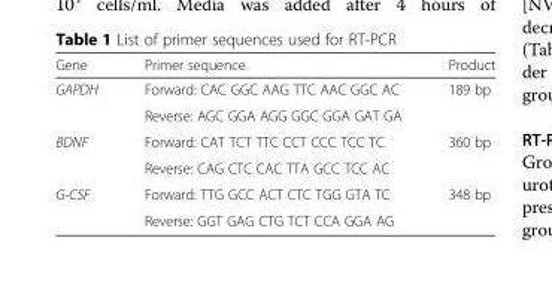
<table><thead><tr><td>Gene</td><td>Primer sequence</td><td>Product</td></tr></thead><tbody><tr><td rowspan="2">GAPDH</td><td>Forward: CAC GGC AAG TTC AAC GGC AC</td><td rowspan="2">189 bp</td></tr><tr><td>Reverse: AGC GGA AGG GGC GGA GAT GA</td></tr><tr><td rowspan="2">BDNF</td><td>Forward: CAT TCT TTC CCT CCC TCC TC</td><td rowspan="2">360 bp</td></tr><tr><td>Reverse: CAG CTC CAC TTA GCC TCC AC</td></tr><tr><td rowspan="2">G-CSF</td><td>Forward: TTG GCC ACT CTC TGG GTA TC</td><td rowspan="2">348 bp</td></tr><tr><td>Reverse: GGT GAG CTG TCT CCA GGA AG</td></tr></tbody></table>